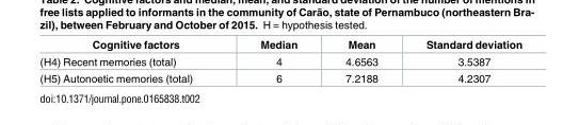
<table><thead><tr><td>Cognitive factors</td><td>Median</td><td>Mean</td><td>Standard deviation</td></tr></thead><tbody><tr><td>(H4) Recent memories (total)</td><td>4</td><td>4.6563</td><td>3.5387</td></tr><tr><td>(H5) Autonoetic memories (total)</td><td>6</td><td>7.2188</td><td>4.2307</td></tr></tbody></table>